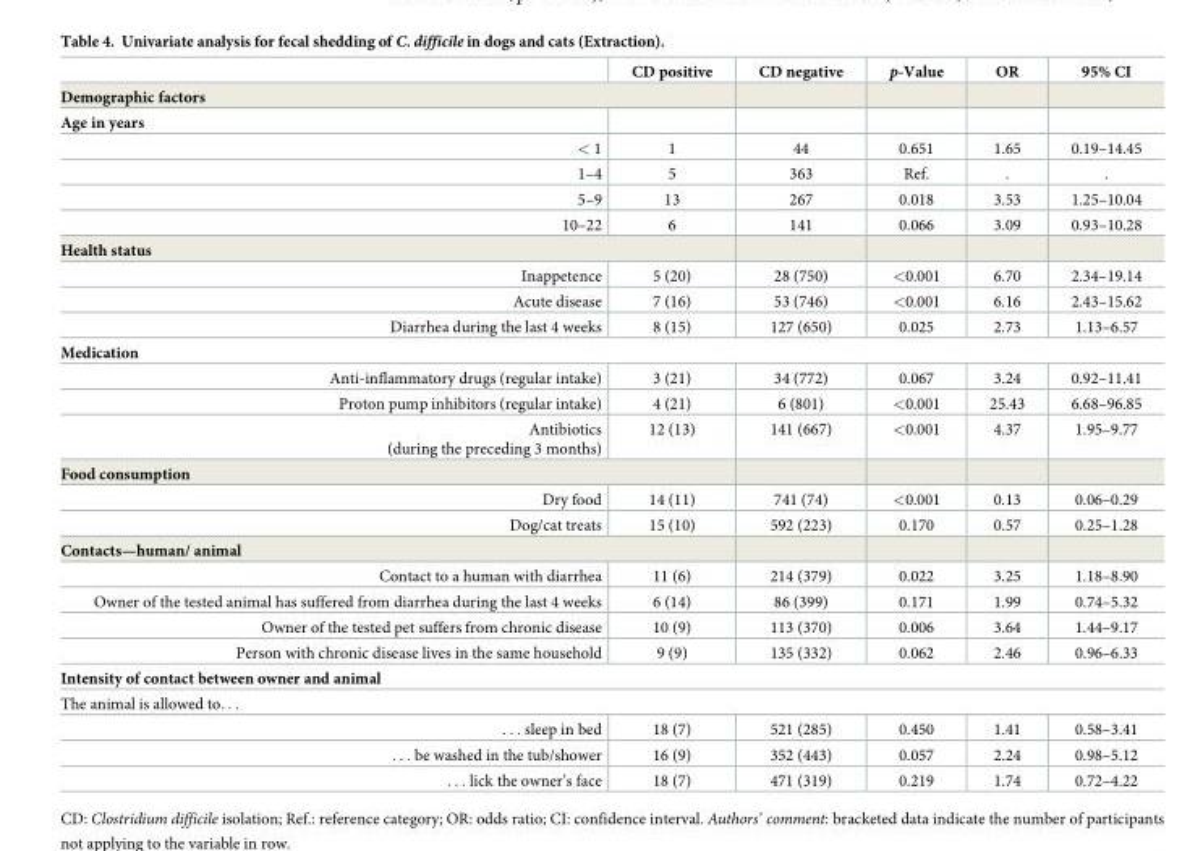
<table><thead><tr><td></td><td>CD positive</td><td>CD negative</td><td>p-Value</td><td>OR</td><td>95% CI</td></tr></thead><tbody><tr><td colspan="6">Demographic factors</td></tr><tr><td colspan="6">Age in years</td></tr><tr><td>&lt; 1</td><td>1</td><td>44</td><td>0.651</td><td>1.65</td><td>0.19–14.45</td></tr><tr><td>1–4</td><td>5</td><td>363</td><td>Ref.</td><td>.</td><td>.</td></tr><tr><td>5–9</td><td>13</td><td>267</td><td>0.018</td><td>3.53</td><td>1.25–10.04</td></tr><tr><td>10–22</td><td>6</td><td>141</td><td>0.066</td><td>3.09</td><td>0.93–10.28</td></tr><tr><td colspan="6">Health status</td></tr><tr><td>Inappetence</td><td>5 (20)</td><td>28 (750)</td><td>&lt;0.001</td><td>6.70</td><td>2.34–19.14</td></tr><tr><td>Acute disease</td><td>7 (16)</td><td>53 (746)</td><td>&lt;0.001</td><td>6.16</td><td>2.43–15.62</td></tr><tr><td>Diarrhea during the last 4 weeks</td><td>8 (15)</td><td>127 (650)</td><td>0.025</td><td>2.73</td><td>1.13–6.57</td></tr><tr><td colspan="6">Medication</td></tr><tr><td>Anti-inflammatory drugs (regular intake)</td><td>3 (21)</td><td>34 (772)</td><td>0.067</td><td>3.24</td><td>0.92–11.41</td></tr><tr><td>Proton pump inhibitors (regular intake)</td><td>4 (21)</td><td>6 (801)</td><td>&lt;0.001</td><td>25.43</td><td>6.68–96.85</td></tr><tr><td>Antibiotics (during the preceding 3 months)</td><td>12 (13)</td><td>141 (667)</td><td>&lt;0.001</td><td>4.37</td><td>1.95–9.77</td></tr><tr><td colspan="6">Food consumption</td></tr><tr><td>Dry food</td><td>14 (11)</td><td>741 (74)</td><td>&lt;0.001</td><td>0.13</td><td>0.06–0.29</td></tr><tr><td>Dog/cat treats</td><td>15 (10)</td><td>592 (223)</td><td>0.170</td><td>0.57</td><td>0.25–1.28</td></tr><tr><td colspan="6">Contacts—human/ animal</td></tr><tr><td>Contact to a human with diarrhea</td><td>11 (6)</td><td>214 (379)</td><td>0.022</td><td>3.25</td><td>1.18–8.90</td></tr><tr><td>Owner of the tested animal has suffered from diarrhea during the last 4 weeks</td><td>6 (14)</td><td>86 (399)</td><td>0.171</td><td>1.99</td><td>0.74–5.32</td></tr><tr><td>Owner of the tested pet suffers from chronic disease</td><td>10 (9)</td><td>113 (370)</td><td>0.006</td><td>3.64</td><td>1.44–9.17</td></tr><tr><td>Person with chronic disease lives in the same household</td><td>9 (9)</td><td>135 (332)</td><td>0.062</td><td>2.46</td><td>0.96–6.33</td></tr><tr><td colspan="6">Intensity of contact between owner and animal</td></tr><tr><td colspan="6">The animal is allowed to. . .</td></tr><tr><td>. . . sleep in bed</td><td>18 (7)</td><td>521 (285)</td><td>0.450</td><td>1.41</td><td>0.58–3.41</td></tr><tr><td>. . . be washed in the tub/shower</td><td>16 (9)</td><td>352 (443)</td><td>0.057</td><td>2.24</td><td>0.98–5.12</td></tr><tr><td>. . . lick the owner’s face</td><td>18 (7)</td><td>471 (319)</td><td>0.219</td><td>1.74</td><td>0.72–4.22</td></tr></tbody></table>